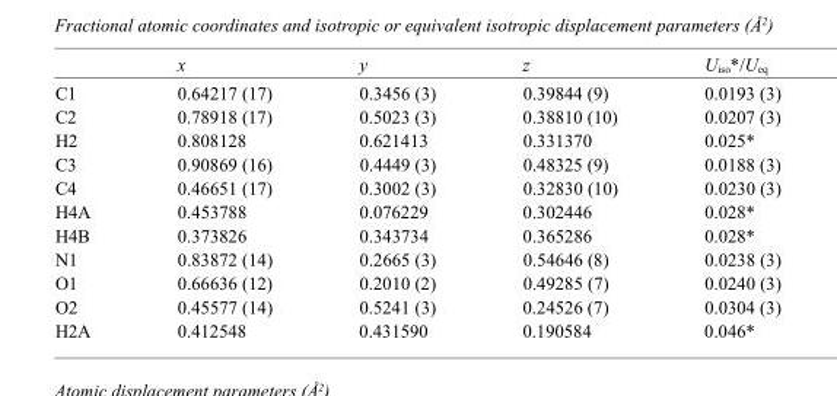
<table><thead><tr><td></td><td>x</td><td>y</td><td>z</td><td>U<sub>iso</sub>*/U<sub>eq</sub></td></tr></thead><tbody><tr><td>C1</td><td>0.64217 (17)</td><td>0.3456 (3)</td><td>0.39844 (9)</td><td>0.0193 (3)</td></tr><tr><td>C2</td><td>0.78918 (17)</td><td>0.5023 (3)</td><td>0.38810 (10)</td><td>0.0207 (3)</td></tr><tr><td>H2</td><td>0.808128</td><td>0.621413</td><td>0.331370</td><td>0.025*</td></tr><tr><td>C3</td><td>0.90869 (16)</td><td>0.4449 (3)</td><td>0.48325 (9)</td><td>0.0188 (3)</td></tr><tr><td>C4</td><td>0.46651 (17)</td><td>0.3002 (3)</td><td>0.32830 (10)</td><td>0.0230 (3)</td></tr><tr><td>H4A</td><td>0.453788</td><td>0.076229</td><td>0.302446</td><td>0.028*</td></tr><tr><td>H4B</td><td>0.373826</td><td>0.343734</td><td>0.365286</td><td>0.028*</td></tr><tr><td>N1</td><td>0.83872 (14)</td><td>0.2665 (3)</td><td>0.54646 (8)</td><td>0.0238 (3)</td></tr><tr><td>O1</td><td>0.66636 (12)</td><td>0.2010 (2)</td><td>0.49285 (7)</td><td>0.0240 (3)</td></tr><tr><td>O2</td><td>0.45577 (14)</td><td>0.5241 (3)</td><td>0.24526 (7)</td><td>0.0304 (3)</td></tr><tr><td>H2A</td><td>0.412548</td><td>0.431590</td><td>0.190584</td><td>0.046*</td></tr></tbody></table>